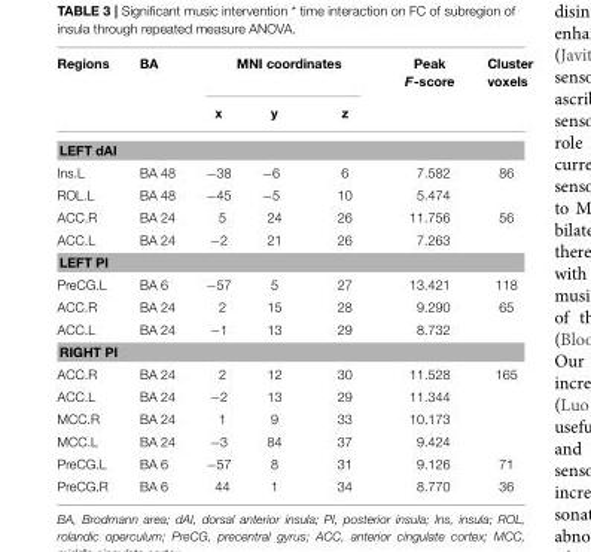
<table><thead><tr><td rowspan="2">Regions</td><td rowspan="2">BA</td><td colspan="3">MNI coordinates</td><td rowspan="2">Peak F-score</td><td rowspan="2">Cluster voxels</td></tr><tr><td>x</td><td>y</td><td>z</td></tr></thead><tbody><tr><td colspan="7">LEFT dAI</td></tr><tr><td>Ins.L</td><td>BA 48</td><td>−38</td><td>−6</td><td>6</td><td>7.582</td><td>86</td></tr><tr><td>ROL.L</td><td>BA 48</td><td>−45</td><td>−5</td><td>10</td><td>5.474</td><td></td></tr><tr><td>ACC.R</td><td>BA 24</td><td>5</td><td>24</td><td>26</td><td>11.756</td><td>56</td></tr><tr><td>ACC.L</td><td>BA 24</td><td>−2</td><td>21</td><td>26</td><td>7.263</td><td></td></tr><tr><td colspan="7">LEFT PI</td></tr><tr><td>PreCG.L</td><td>BA 6</td><td>−57</td><td>5</td><td>27</td><td>13.421</td><td>118</td></tr><tr><td>ACC.R</td><td>BA 24</td><td>2</td><td>15</td><td>28</td><td>9.290</td><td>65</td></tr><tr><td>ACC.L</td><td>BA 24</td><td>−1</td><td>13</td><td>29</td><td>8.732</td><td></td></tr><tr><td colspan="7">RIGHT PI</td></tr><tr><td>ACC.R</td><td>BA 24</td><td>2</td><td>12</td><td>30</td><td>11.528</td><td>165</td></tr><tr><td>ACC.L</td><td>BA 24</td><td>−2</td><td>13</td><td>29</td><td>11.344</td><td></td></tr><tr><td>MCC.R</td><td>BA 24</td><td>1</td><td>9</td><td>33</td><td>10.173</td><td></td></tr><tr><td>MCC.L</td><td>BA 24</td><td>−3</td><td>84</td><td>37</td><td>9.424</td><td></td></tr><tr><td>PreCG.L</td><td>BA 6</td><td>−57</td><td>8</td><td>31</td><td>9.126</td><td>71</td></tr><tr><td>PreCG.R</td><td>BA 6</td><td>44</td><td>1</td><td>34</td><td>8.770</td><td>36</td></tr></tbody></table>